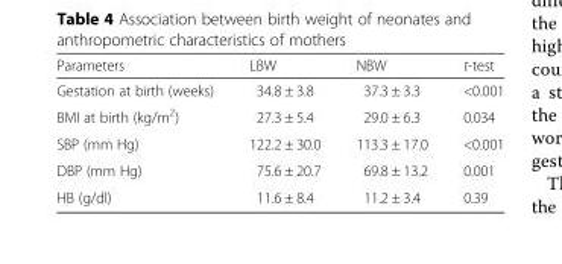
<table><thead><tr><td>Parameters</td><td>LBW</td><td>NBW</td><td>t-test</td></tr></thead><tbody><tr><td>Gestation at birth (weeks)</td><td>34.8 ± 3.8</td><td>37.3 ± 3.3</td><td>&lt;0.001</td></tr><tr><td>BMI at birth (kg/m<sup>2</sup>)</td><td>27.3 ± 5.4</td><td>29.0 ± 6.3</td><td>0.034</td></tr><tr><td>SBP (mm Hg)</td><td>122.2 ± 30.0</td><td>113.3 ± 17.0</td><td>&lt;0.001</td></tr><tr><td>DBP (mm Hg)</td><td>75.6 ± 20.7</td><td>69.8 ± 13.2</td><td>0.001</td></tr><tr><td>HB (g/dl)</td><td>11.6 ± 8.4</td><td>11.2 ± 3.4</td><td>0.39</td></tr></tbody></table>